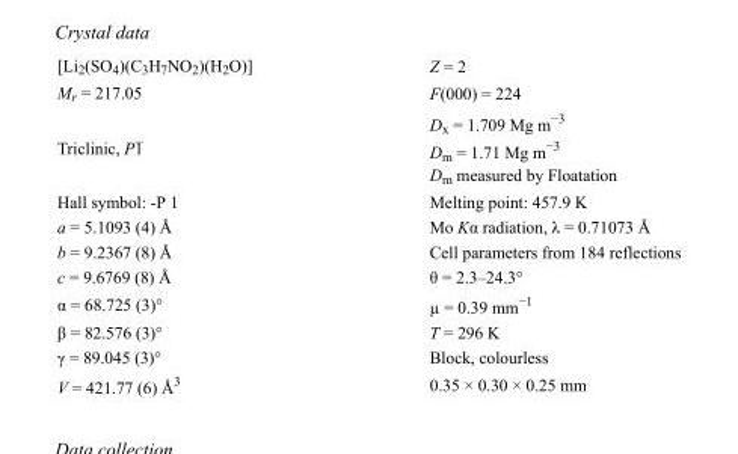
<table><tbody><tr><td>[Li<sub>2</sub>(SO<sub>4</sub>)(C<sub>3</sub>H<sub>7</sub>NO<sub>2</sub>)(H<sub>2</sub>O)]</td><td>Z = 2</td></tr><tr><td>M<sub>r</sub> = 217.05</td><td>F(000) = 224</td></tr><tr><td>Triclinic, P1</td><td>D<sub>x</sub> = 1.709 Mg m<sup>−3</sup> D<sub>m</sub> = 1.71 Mg m<sup>−3</sup> D<sub>m</sub> measured by Floatation</td></tr><tr><td>Hall symbol: -P 1</td><td>Melting point: 457.9 K</td></tr><tr><td>a = 5.1093 (4) Å</td><td>Mo Kα radiation, λ = 0.71073 Å</td></tr><tr><td>b = 9.2367 (8) Å</td><td>Cell parameters from 184 reflections</td></tr><tr><td>c = 9.6769 (8) Å</td><td>θ = 2.3–24.3°</td></tr><tr><td>α = 68.725 (3)°</td><td>µ = 0.39 mm<sup>−1</sup></td></tr><tr><td>β = 82.576 (3)°</td><td>T = 296 K</td></tr><tr><td>γ = 89.045 (3)°</td><td>Block, colourless</td></tr><tr><td>V = 421.77 (6) Å<sup>3</sup></td><td>0.35 × 0.30 × 0.25 mm</td></tr></tbody></table>